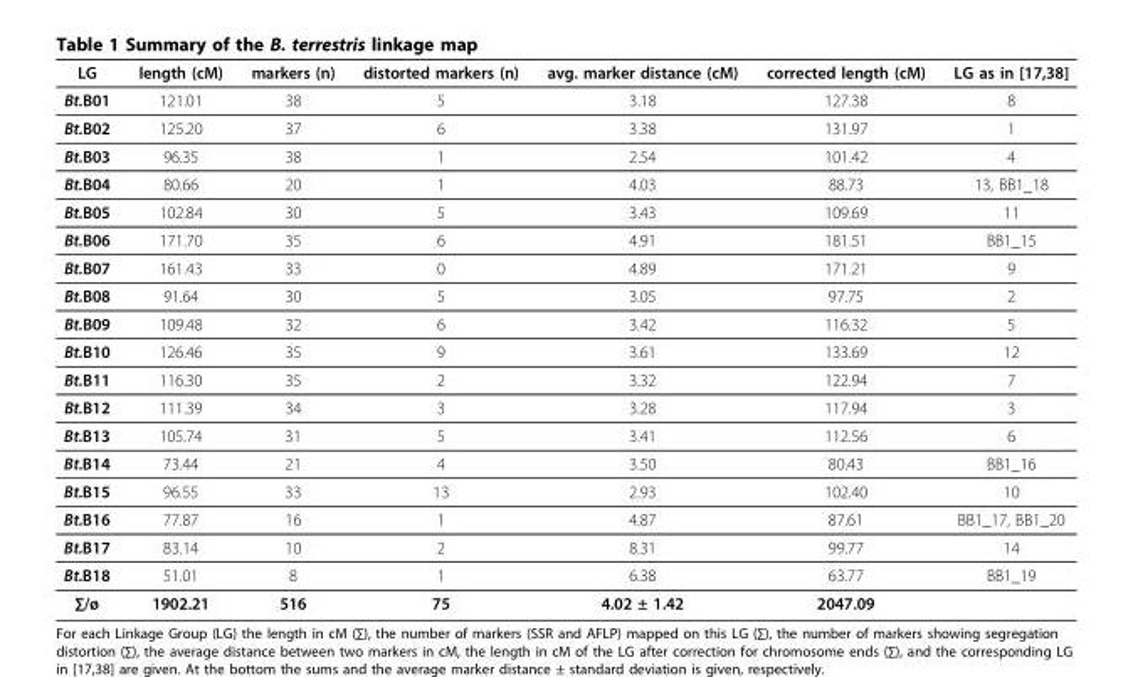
<table><thead><tr><td>LG</td><td>length (cM)</td><td>markers (n)</td><td>distorted markers (n)</td><td>avg. marker distance (cM)</td><td>corrected length (cM)</td><td>LG as in [17,38]</td></tr></thead><tbody><tr><td>Bt.B01</td><td>121.01</td><td>38</td><td>5</td><td>3.18</td><td>127.38</td><td>8</td></tr><tr><td>Bt.B02</td><td>125.20</td><td>37</td><td>6</td><td>3.38</td><td>131.97</td><td>1</td></tr><tr><td>Bt.B03</td><td>96.35</td><td>38</td><td>1</td><td>2.54</td><td>101.42</td><td>4</td></tr><tr><td>Bt.B04</td><td>80.66</td><td>20</td><td>1</td><td>4.03</td><td>88.73</td><td>13, BB1_18</td></tr><tr><td>Bt.B05</td><td>102.84</td><td>30</td><td>5</td><td>3.43</td><td>109.69</td><td>11</td></tr><tr><td>Bt.B06</td><td>171.70</td><td>35</td><td>6</td><td>4.91</td><td>181.51</td><td>BB1_15</td></tr><tr><td>Bt.B07</td><td>161.43</td><td>33</td><td>0</td><td>4.89</td><td>171.21</td><td>9</td></tr><tr><td>Bt.B08</td><td>91.64</td><td>30</td><td>5</td><td>3.05</td><td>97.75</td><td>2</td></tr><tr><td>Bt.B09</td><td>109.48</td><td>32</td><td>6</td><td>3.42</td><td>116.32</td><td>5</td></tr><tr><td>Bt.B10</td><td>126.46</td><td>35</td><td>9</td><td>3.61</td><td>133.69</td><td>12</td></tr><tr><td>Bt.B11</td><td>116.30</td><td>35</td><td>2</td><td>3.32</td><td>122.94</td><td>7</td></tr><tr><td>Bt.B12</td><td>111.39</td><td>34</td><td>3</td><td>3.28</td><td>117.94</td><td>3</td></tr><tr><td>Bt.B13</td><td>105.74</td><td>31</td><td>5</td><td>3.41</td><td>112.56</td><td>6</td></tr><tr><td>Bt.B14</td><td>73.44</td><td>21</td><td>4</td><td>3.50</td><td>80.43</td><td>BB1_16</td></tr><tr><td>Bt.B15</td><td>96.55</td><td>33</td><td>13</td><td>2.93</td><td>102.40</td><td>10</td></tr><tr><td>Bt.B16</td><td>77.87</td><td>16</td><td>1</td><td>4.87</td><td>87.61</td><td>BB1_17, BB1_20</td></tr><tr><td>Bt.B17</td><td>83.14</td><td>10</td><td>2</td><td>8.31</td><td>99.77</td><td>14</td></tr><tr><td>Bt.B18</td><td>51.01</td><td>8</td><td>1</td><td>6.38</td><td>63.77</td><td>BB1_19</td></tr><tr><td>∑/ø</td><td>1902.21</td><td>516</td><td>75</td><td>4.02 ± 1.42</td><td>2047.09</td><td></td></tr></tbody></table>